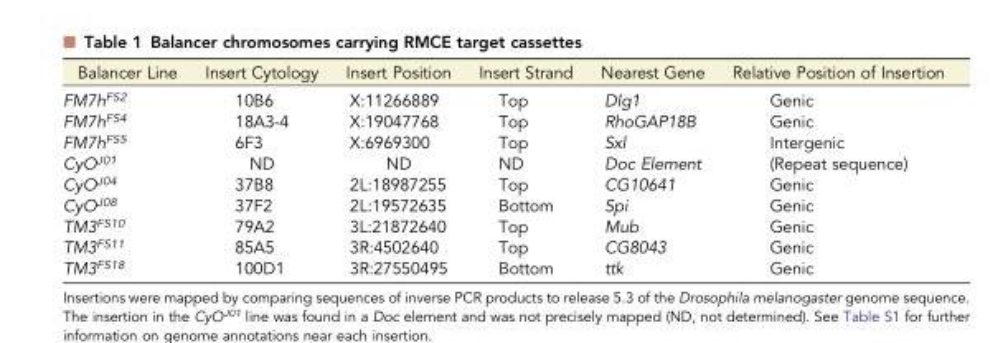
<table><thead><tr><td>Balancer Line</td><td>Insert Cytology</td><td>Insert Position</td><td>Insert Strand</td><td>Nearest Gene</td><td>Relative Position of Insertion</td></tr></thead><tbody><tr><td>FM7h<sup>FS2</sup></td><td>10B6</td><td>X:11266889</td><td>Top</td><td>Dlg1</td><td>Genic</td></tr><tr><td>FM7h<sup>FS4</sup></td><td>18A3-4</td><td>X:19047768</td><td>Top</td><td>RhoGAP18B</td><td>Genic</td></tr><tr><td>FM7h<sup>FS5</sup></td><td>6F3</td><td>X:6969300</td><td>Top</td><td>Sxl</td><td>Intergenic</td></tr><tr><td>CyO<sup>J01</sup></td><td>ND</td><td>ND</td><td>ND</td><td>Doc Element</td><td>(Repeat sequence)</td></tr><tr><td>CyO<sup>J04</sup></td><td>37B8</td><td>2L:18987255</td><td>Top</td><td>CG10641</td><td>Genic</td></tr><tr><td>CyO<sup>J08</sup></td><td>37F2</td><td>2L:19572635</td><td>Bottom</td><td>Spi</td><td>Genic</td></tr><tr><td>TM3<sup>FS10</sup></td><td>79A2</td><td>3L:21872640</td><td>Top</td><td>Mub</td><td>Genic</td></tr><tr><td>TM3<sup>FS11</sup></td><td>85A5</td><td>3R:4502640</td><td>Top</td><td>CG8043</td><td>Genic</td></tr><tr><td>TM3<sup>FS18</sup></td><td>100D1</td><td>3R:27550495</td><td>Bottom</td><td>ttk</td><td>Genic</td></tr></tbody></table>